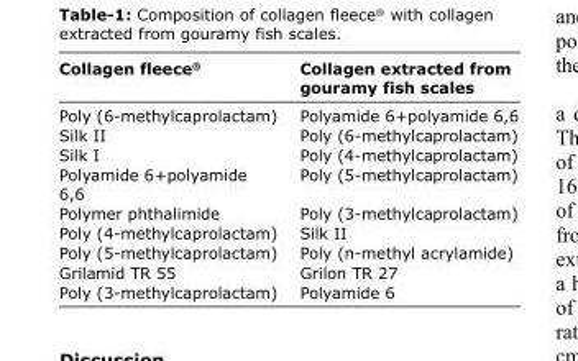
<table><thead><tr><td>Collagen fleece<sup>®</sup></td><td>Collagen extracted from gouramy fish scales</td></tr></thead><tbody><tr><td>Poly (6-methylcaprolactam)</td><td>Polyamide 6+polyamide 6,6</td></tr><tr><td>Silk II</td><td>Poly (6-methylcaprolactam)</td></tr><tr><td>Silk I</td><td>Poly (4-methylcaprolactam)</td></tr><tr><td>Polyamide 6+polyamide 6,6</td><td>Poly (5-methylcaprolactam)</td></tr><tr><td>Polymer phthalimide</td><td>Poly (3-methylcaprolactam)</td></tr><tr><td>Poly (4-methylcaprolactam)</td><td>Silk II</td></tr><tr><td>Poly (5-methylcaprolactam)</td><td>Poly (n-methyl acrylamide)</td></tr><tr><td>Grilamid TR 55</td><td>Grilon TR 27</td></tr><tr><td>Poly (3-methylcaprolactam)</td><td>Polyamide 6</td></tr></tbody></table>